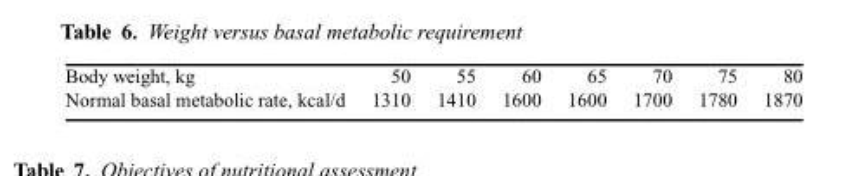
<table><tbody><tr><td>Body weight, kg</td><td>50</td><td>55</td><td>60</td><td>65</td><td>70</td><td>75</td><td>80</td></tr><tr><td>Normal basal metabolic rate, kcal/d</td><td>1310</td><td>1410</td><td>1600</td><td>1600</td><td>1700</td><td>1780</td><td>1870</td></tr></tbody></table>